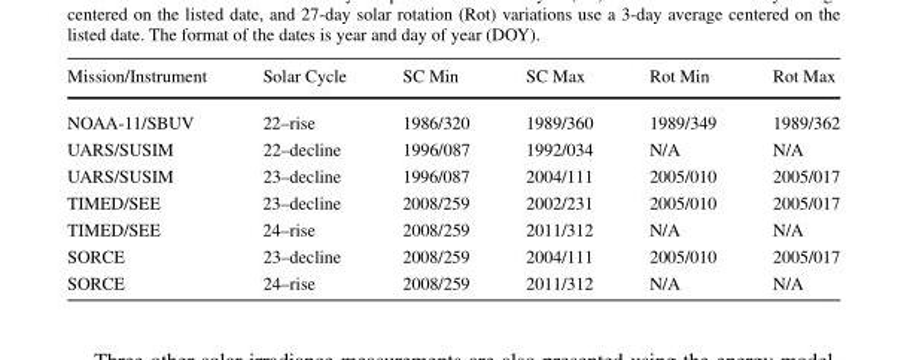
<table><thead><tr><td>Mission/Instrument</td><td>Solar Cycle</td><td>SC Min</td><td>SC Max</td><td>Rot Min</td><td>Rot Max</td></tr></thead><tbody><tr><td>NOAA-11/SBUV</td><td>22–rise</td><td>1986/320</td><td>1989/360</td><td>1989/349</td><td>1989/362</td></tr><tr><td>UARS/SUSIM</td><td>22–decline</td><td>1996/087</td><td>1992/034</td><td>N/A</td><td>N/A</td></tr><tr><td>UARS/SUSIM</td><td>23–decline</td><td>1996/087</td><td>2004/111</td><td>2005/010</td><td>2005/017</td></tr><tr><td>TIMED/SEE</td><td>23–decline</td><td>2008/259</td><td>2002/231</td><td>2005/010</td><td>2005/017</td></tr><tr><td>TIMED/SEE</td><td>24–rise</td><td>2008/259</td><td>2011/312</td><td>N/A</td><td>N/A</td></tr><tr><td>SORCE</td><td>23–decline</td><td>2008/259</td><td>2004/111</td><td>2005/010</td><td>2005/017</td></tr><tr><td>SORCE</td><td>24–rise</td><td>2008/259</td><td>2011/312</td><td>N/A</td><td>N/A</td></tr></tbody></table>